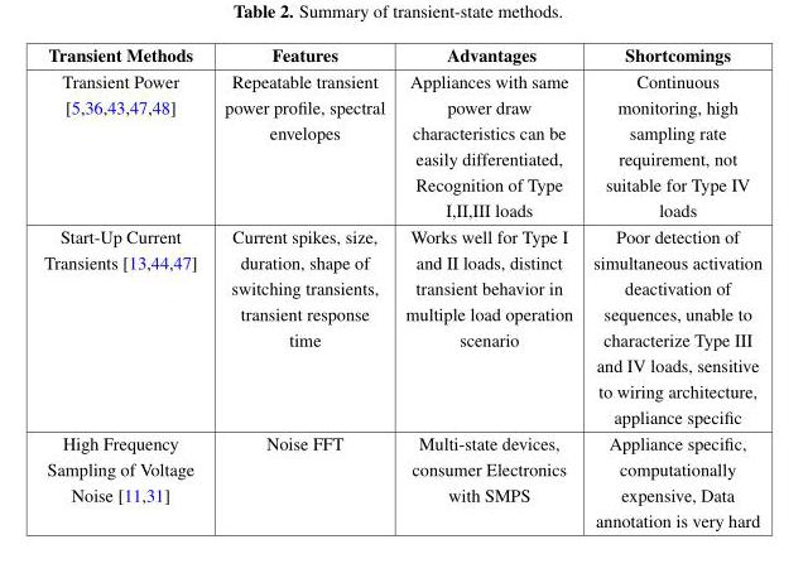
<table><thead><tr><td>Transient Methods</td><td>Features</td><td>Advantages</td><td>Shortcomings</td></tr></thead><tbody><tr><td>Transient Power [5,36,43,47,48]</td><td>Repeatable transient power profile, spectral envelopes</td><td>Appliances with same power draw characteristics can be easily differentiated, Recognition of Type I,II,III loads</td><td>Continuous monitoring, high sampling rate requirement, not suitable for Type IV loads</td></tr><tr><td>Start-Up Current Transients [13,44,47]</td><td>Current spikes, size, duration, shape of switching transients, transient response time</td><td>Works well for Type I and II loads, distinct transient behavior in multiple load operation scenario</td><td>Poor detection of simultaneous activation deactivation of sequences, unable to characterize Type III and IV loads, sensitive to wiring architecture, appliance specific</td></tr><tr><td>High Frequency Sampling of Voltage Noise [11,31]</td><td>Noise FFT</td><td>Multi-state devices, consumer Electronics with SMPS</td><td>Appliance specific, computationally expensive, Data annotation is very hard</td></tr></tbody></table>